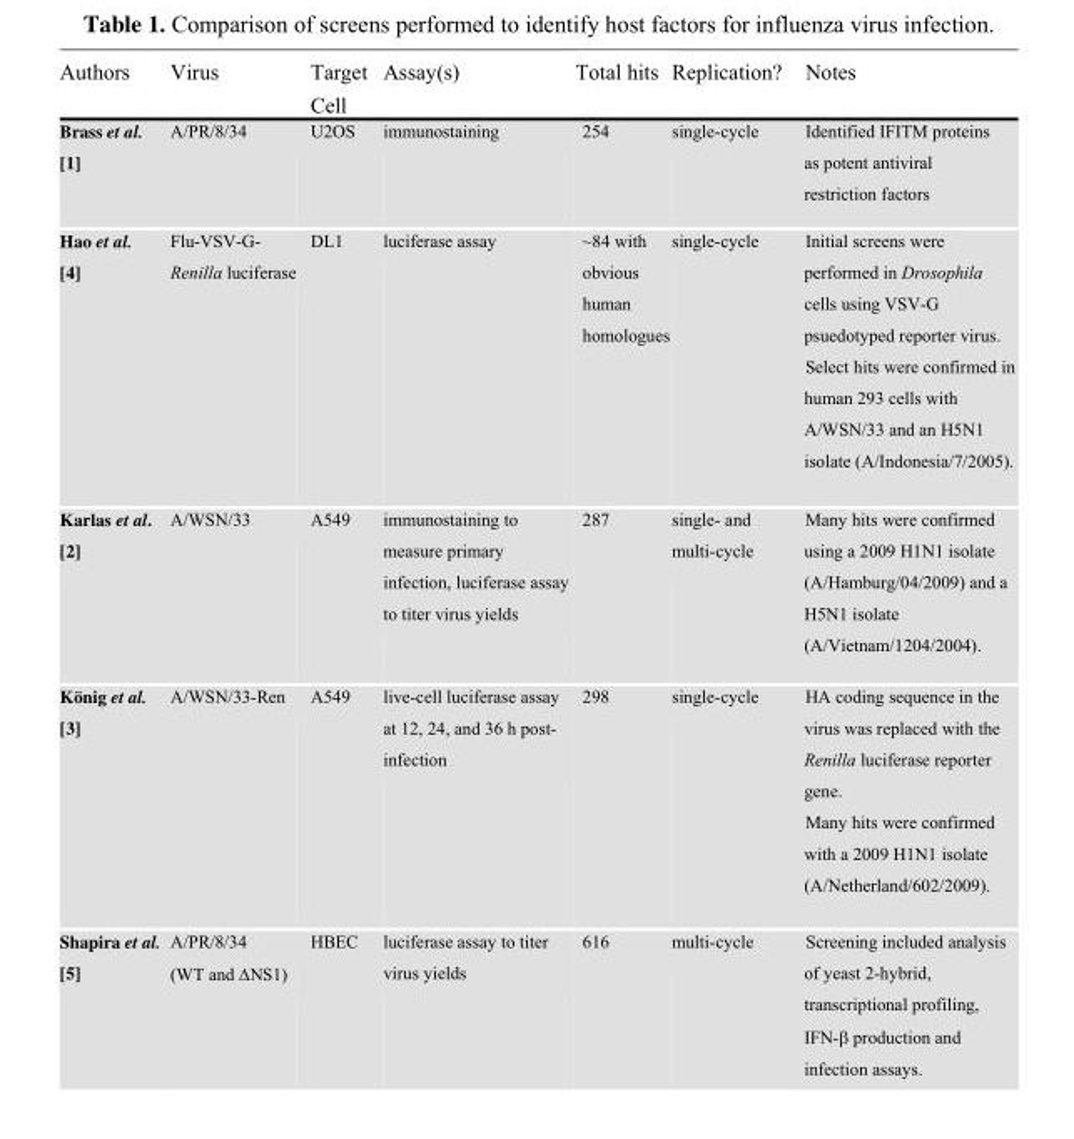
<table><thead><tr><td>Authors</td><td>Virus</td><td>Target Cell</td><td>Assay(s)</td><td>Total hits</td><td>Replication?</td><td>Notes</td></tr></thead><tbody><tr><td>Brass et al. [1]</td><td>A/PR/8/34</td><td>U2OS</td><td>immunostaining</td><td>254</td><td>single-cycle</td><td>Identified IFITM proteins as potent antiviral restriction factors</td></tr><tr><td>Hao et al. [4]</td><td>Flu-VSV-G- Renilla luciferase</td><td>DL1</td><td>luciferase assay</td><td>~84 with obvious human homologues</td><td>single-cycle</td><td>Initial screens were performed in Drosophila cells using VSV-G psuedotyped reporter virus. Select hits were confirmed in human 293 cells with A/WSN/33 and an H5N1 isolate (A/Indonesia/7/2005).</td></tr><tr><td>Karlas et al. [2]</td><td>A/WSN/33</td><td>A549</td><td>immunostaining to measure primary infection, luciferase assay to titer virus yields</td><td>287</td><td>single- and multi-cycle</td><td>Many hits were confirmed using a 2009 H1N1 isolate (A/Hamburg/04/2009) and a H5N1 isolate (A/Vietnam/1204/2004).</td></tr><tr><td>König et al. [3]</td><td>A/WSN/33-Ren</td><td>A549</td><td>live-cell luciferase assay at 12, 24, and 36 h post- infection</td><td>298</td><td>single-cycle</td><td>HA coding sequence in the virus was replaced with the Renilla luciferase reporter gene. Many hits were confirmed with a 2009 H1N1 isolate (A/Netherland/602/2009).</td></tr><tr><td>Shapira et al. [5]</td><td>A/PR/8/34 (WT and ΔNS1)</td><td>HBEC</td><td>luciferase assay to titer virus yields</td><td>616</td><td>multi-cycle</td><td>Screening included analysis of yeast 2-hybrid, transcriptional profiling, IFN-β production and infection assays.</td></tr></tbody></table>